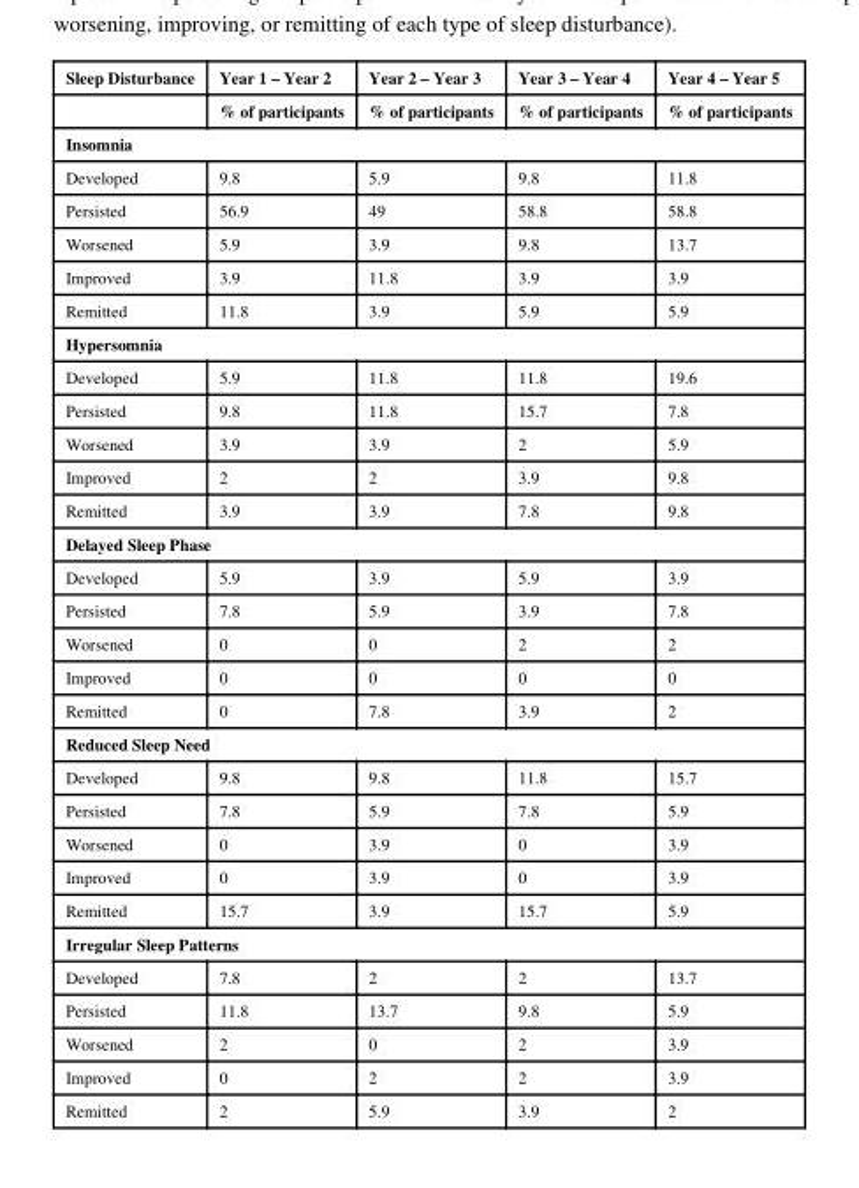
<table><thead><tr><td rowspan="2">Sleep Disturbance</td><td rowspan="2">Year 1 – Year 2 % of participants</td><td rowspan="2">Year 2 – Year 3 % of participants</td><td rowspan="2">Year 3 – Year 4 % of participants</td><td rowspan="2">Year 4 – Year 5 % of participants</td></tr><tr></tr></thead><tbody><tr><td colspan="5">Insomnia</td></tr><tr><td>Developed</td><td>9.8</td><td>5.9</td><td>9.8</td><td>11.8</td></tr><tr><td>Persisted</td><td>56.9</td><td>49</td><td>58.8</td><td>58.8</td></tr><tr><td>Worsened</td><td>5.9</td><td>3.9</td><td>9.8</td><td>13.7</td></tr><tr><td>Improved</td><td>3.9</td><td>11.8</td><td>3.9</td><td>3.9</td></tr><tr><td>Remitted</td><td>11.8</td><td>3.9</td><td>5.9</td><td>5.9</td></tr><tr><td colspan="5">Hypersomnia</td></tr><tr><td>Developed</td><td>5.9</td><td>11.8</td><td>11.8</td><td>19.6</td></tr><tr><td>Persisted</td><td>9.8</td><td>11.8</td><td>15.7</td><td>7.8</td></tr><tr><td>Worsened</td><td>3.9</td><td>3.9</td><td>2</td><td>5.9</td></tr><tr><td>Improved</td><td>2</td><td>2</td><td>3.9</td><td>9.8</td></tr><tr><td>Remitted</td><td>3.9</td><td>3.9</td><td>7.8</td><td>9.8</td></tr><tr><td colspan="5">Delayed Sleep Phase</td></tr><tr><td>Developed</td><td>5.9</td><td>3.9</td><td>5.9</td><td>3.9</td></tr><tr><td>Persisted</td><td>7.8</td><td>5.9</td><td>3.9</td><td>7.8</td></tr><tr><td>Worsened</td><td>0</td><td>0</td><td>2</td><td>2</td></tr><tr><td>Improved</td><td>0</td><td>0</td><td>0</td><td>0</td></tr><tr><td>Remitted</td><td>0</td><td>7.8</td><td>3.9</td><td>2</td></tr><tr><td colspan="5">Reduced Sleep Need</td></tr><tr><td>Developed</td><td>9.8</td><td>9.8</td><td>11.8</td><td>15.7</td></tr><tr><td>Persisted</td><td>7.8</td><td>5.9</td><td>7.8</td><td>5.9</td></tr><tr><td>Worsened</td><td>0</td><td>3.9</td><td>0</td><td>3.9</td></tr><tr><td>Improved</td><td>0</td><td>3.9</td><td>0</td><td>3.9</td></tr><tr><td>Remitted</td><td>15.7</td><td>3.9</td><td>15.7</td><td>5.9</td></tr><tr><td colspan="5">Irregular Sleep Patterns</td></tr><tr><td>Developed</td><td>7.8</td><td>2</td><td>2</td><td>13.7</td></tr><tr><td>Persisted</td><td>11.8</td><td>13.7</td><td>9.8</td><td>5.9</td></tr><tr><td>Worsened</td><td>2</td><td>0</td><td>2</td><td>3.9</td></tr><tr><td>Improved</td><td>0</td><td>2</td><td>2</td><td>3.9</td></tr><tr><td>Remitted</td><td>2</td><td>5.9</td><td>3.9</td><td>2</td></tr></tbody></table>